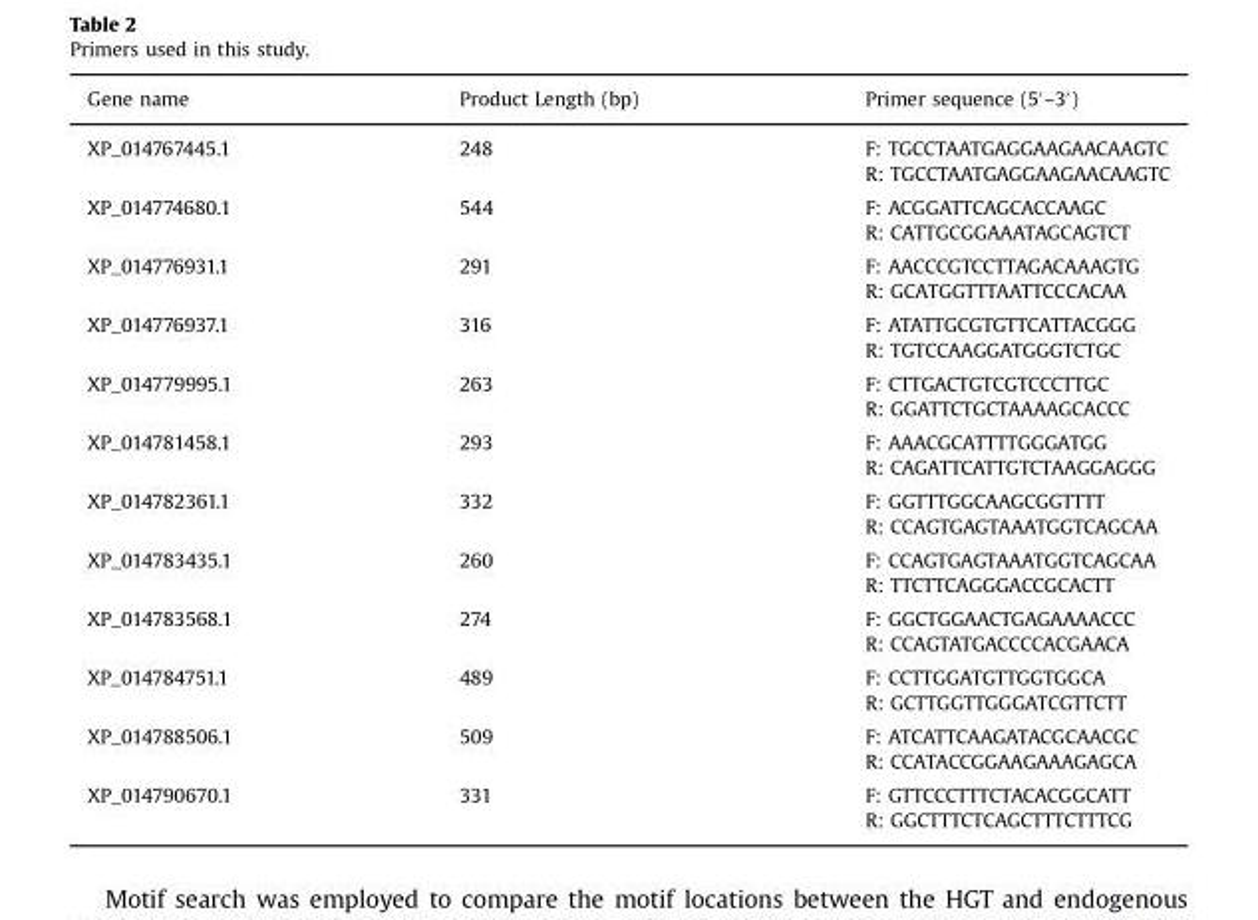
<table><thead><tr><td>Gene name</td><td>Product Length (bp)</td><td>Primer sequence (5′–3′)</td></tr></thead><tbody><tr><td rowspan="2">XP_014767445.1</td><td rowspan="2">248</td><td>F: TGCCTAATGAGGAAGAACAAGTC</td></tr><tr><td>R: TGCCTAATGAGGAAGAACAAGTC</td></tr><tr><td rowspan="2">XP_014774680.1</td><td rowspan="2">544</td><td>F: ACGGATTCAGCACCAAGC</td></tr><tr><td>R: CATTGCGGAAATAGCAGTCT</td></tr><tr><td rowspan="2">XP_014776931.1</td><td rowspan="2">291</td><td>F: AACCCGTCCTTAGACAAAGTG</td></tr><tr><td>R: GCATGGTTTAATTCCCACAA</td></tr><tr><td rowspan="2">XP_014776937.1</td><td rowspan="2">316</td><td>F: ATATTGCGTGTTCATTACGGG</td></tr><tr><td>R: TGTCCAAGGATGGGTCTGC</td></tr><tr><td rowspan="2">XP_014779995.1</td><td rowspan="2">263</td><td>F: CTTGACTGTCGTCCCTTGC</td></tr><tr><td>R: GGATTCTGCTAAAAGCACCC</td></tr><tr><td rowspan="2">XP_014781458.1</td><td rowspan="2">293</td><td>F: AAACGCATTTTGGGATGG</td></tr><tr><td>R: CAGATTCATTGTCTAAGGAGGG</td></tr><tr><td rowspan="2">XP_014782361.1</td><td rowspan="2">332</td><td>F: GGTTTGGCAAGCGGTTTT</td></tr><tr><td>R: CCAGTGAGTAAATGGTCAGCAA</td></tr><tr><td rowspan="2">XP_014783435.1</td><td rowspan="2">260</td><td>F: CCAGTGAGTAAATGGTCAGCAA</td></tr><tr><td>R: TTCTTCAGGGACCGCACTT</td></tr><tr><td rowspan="2">XP_014783568.1</td><td rowspan="2">274</td><td>F: GGCTGGAACTGAGAAAACCC</td></tr><tr><td>R: CCAGTATGACCCCACGAACA</td></tr><tr><td rowspan="2">XP_014784751.1</td><td rowspan="2">489</td><td>F: CCTTGGATGTTGGTGGCA</td></tr><tr><td>R: GCTTGGTTGGGATCGTTCTT</td></tr><tr><td rowspan="2">XP_014788506.1</td><td rowspan="2">509</td><td>F: ATCATTCAAGATACGCAACGC</td></tr><tr><td>R: CCATACCGGAAGAAAGAGCA</td></tr><tr><td rowspan="2">XP_014790670.1</td><td rowspan="2">331</td><td>F: GTTCCCTTTCTACACGGCATT</td></tr><tr><td>R: GGCTTTCTCAGCTTTCTTTCG</td></tr></tbody></table>